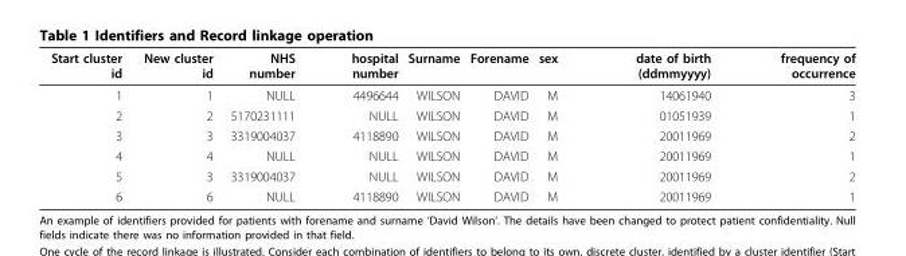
<table><thead><tr><td>Start cluster id</td><td>New cluster id</td><td>NHS number</td><td>hospital number</td><td>Surname</td><td>Forename</td><td>sex</td><td>date of birth (ddmmyyyy)</td><td>frequency of occurrence</td></tr></thead><tbody><tr><td>1</td><td>1</td><td>NULL</td><td>4496644</td><td>WILSON</td><td>DAVID</td><td>M</td><td>14061940</td><td>3</td></tr><tr><td>2</td><td>2</td><td>5170231111</td><td>NULL</td><td>WILSON</td><td>DAVID</td><td>M</td><td>01051939</td><td>1</td></tr><tr><td>3</td><td>3</td><td>3319004037</td><td>4118890</td><td>WILSON</td><td>DAVID</td><td>M</td><td>20011969</td><td>2</td></tr><tr><td>4</td><td>4</td><td>NULL</td><td>NULL</td><td>WILSON</td><td>DAVID</td><td>M</td><td>20011969</td><td>1</td></tr><tr><td>5</td><td>3</td><td>3319004037</td><td>NULL</td><td>WILSON</td><td>DAVID</td><td>M</td><td>20011969</td><td>2</td></tr><tr><td>6</td><td>6</td><td>NULL</td><td>4118890</td><td>WILSON</td><td>DAVID</td><td>M</td><td>20011969</td><td>1</td></tr></tbody></table>